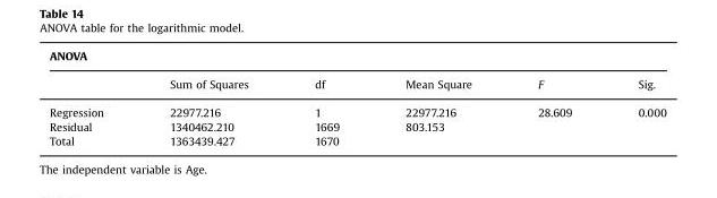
<table><thead><tr><td colspan="6">ANOVA</td></tr><tr><td></td><td>Sum of Squares</td><td>df</td><td>Mean Square</td><td>F</td><td>Sig.</td></tr></thead><tbody><tr><td>Regression</td><td>22977.216</td><td>1</td><td>22977.216</td><td>28.609</td><td>0.000</td></tr><tr><td>Residual</td><td>1340462.210</td><td>1669</td><td>803.153</td><td></td><td></td></tr><tr><td>Total</td><td>1363439.427</td><td>1670</td><td></td><td></td><td></td></tr></tbody></table>